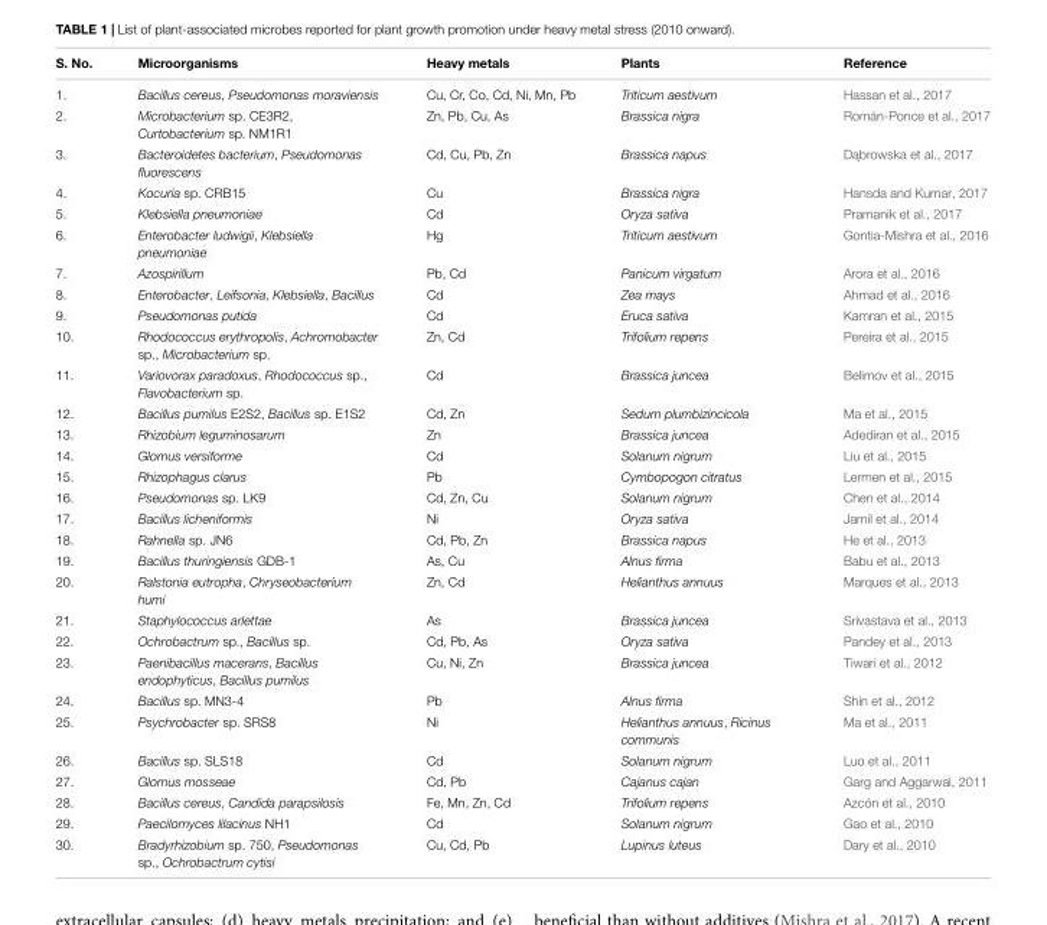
<table><thead><tr><td>S. No.</td><td>Microorganisms</td><td>Heavy metals</td><td>Plants</td><td>Reference</td></tr></thead><tbody><tr><td>1.</td><td>Bacillus cereus, Pseudomonas moraviensis</td><td>Cu, Cr, Co, Cd, Ni, Mn, Pb</td><td>Triticum aestivum</td><td>Hassan et al., 2017</td></tr><tr><td>2.</td><td>Microbacterium sp. CE3R2, Curtobacterium sp. NM1R1</td><td>Zn, Pb, Cu, As</td><td>Brassica nigra</td><td>Román-Ponce et al., 2017</td></tr><tr><td>3.</td><td>Bacteroidetes bacterium, Pseudomonas fluorescens</td><td>Cd, Cu, Pb, Zn</td><td>Brassica napus</td><td>D ˛abrowska et al., 2017</td></tr><tr><td>4.</td><td>Kocuria sp. CRB15</td><td>Cu</td><td>Brassica nigra</td><td>Hansda and Kumar, 2017</td></tr><tr><td>5.</td><td>Klebsiella pneumoniae</td><td>Cd</td><td>Oryza sativa</td><td>Pramanik et al., 2017</td></tr><tr><td>6.</td><td>Enterobacter ludwigii, Klebsiella pneumoniae</td><td>Hg</td><td>Triticum aestivum</td><td>Gontia-Mishra et al., 2016</td></tr><tr><td>7.</td><td>Azospirillum</td><td>Pb, Cd</td><td>Panicum virgatum</td><td>Arora et al., 2016</td></tr><tr><td>8.</td><td>Enterobacter, Leifsonia, Klebsiella, Bacillus</td><td>Cd</td><td>Zea mays</td><td>Ahmad et al., 2016</td></tr><tr><td>9.</td><td>Pseudomonas putida</td><td>Cd</td><td>Eruca sativa</td><td>Kamran et al., 2015</td></tr><tr><td>10.</td><td>Rhodococcus erythropolis, Achromobacter sp., Microbacterium sp.</td><td>Zn, Cd</td><td>Trifolium repens</td><td>Pereira et al., 2015</td></tr><tr><td>11.</td><td>Variovorax paradoxus, Rhodococcus sp., Flavobacterium sp.</td><td>Cd</td><td>Brassica juncea</td><td>Belimov et al., 2015</td></tr><tr><td>12.</td><td>Bacillus pumilus E2S2, Bacillus sp. E1S2</td><td>Cd, Zn</td><td>Sedum plumbizincicola</td><td>Ma et al., 2015</td></tr><tr><td>13.</td><td>Rhizobium leguminosarum</td><td>Zn</td><td>Brassica juncea</td><td>Adediran et al., 2015</td></tr><tr><td>14.</td><td>Glomus versiforme</td><td>Cd</td><td>Solanum nigrum</td><td>Liu et al., 2015</td></tr><tr><td>15.</td><td>Rhizophagus clarus</td><td>Pb</td><td>Cymbopogon citratus</td><td>Lermen et al., 2015</td></tr><tr><td>16.</td><td>Pseudomonas sp. LK9</td><td>Cd, Zn, Cu</td><td>Solanum nigrum</td><td>Chen et al., 2014</td></tr><tr><td>17.</td><td>Bacillus licheniformis</td><td>Ni</td><td>Oryza sativa</td><td>Jamil et al., 2014</td></tr><tr><td>18.</td><td>Rahnella sp. JN6</td><td>Cd, Pb, Zn</td><td>Brassica napus</td><td>He et al., 2013</td></tr><tr><td>19.</td><td>Bacillus thuringiensis GDB-1</td><td>As, Cu</td><td>Alnus firma</td><td>Babu et al., 2013</td></tr><tr><td>20.</td><td>Ralstonia eutropha, Chryseobacterium humi</td><td>Zn, Cd</td><td>Helianthus annuus</td><td>Marques et al., 2013</td></tr><tr><td>21.</td><td>Staphylococcus arlettae</td><td>As</td><td>Brassica juncea</td><td>Srivastava et al., 2013</td></tr><tr><td>22.</td><td>Ochrobactrum sp., Bacillus sp.</td><td>Cd, Pb, As</td><td>Oryza sativa</td><td>Pandey et al., 2013</td></tr><tr><td>23.</td><td>Paenibacillus macerans, Bacillus endophyticus, Bacillus pumilus</td><td>Cu, Ni, Zn</td><td>Brassica juncea</td><td>Tiwari et al., 2012</td></tr><tr><td>24.</td><td>Bacillus sp. MN3-4</td><td>Pb</td><td>Alnus firma</td><td>Shin et al., 2012</td></tr><tr><td>25.</td><td>Psychrobacter sp. SRS8</td><td>Ni</td><td>Helianthus annuus, Ricinus communis</td><td>Ma et al., 2011</td></tr><tr><td>26.</td><td>Bacillus sp. SLS18</td><td>Cd</td><td>Solanum nigrum</td><td>Luo et al., 2011</td></tr><tr><td>27.</td><td>Glomus mosseae</td><td>Cd, Pb</td><td>Cajanus cajan</td><td>Garg and Aggarwal, 2011</td></tr><tr><td>28.</td><td>Bacillus cereus, Candida parapsilosis</td><td>Fe, Mn, Zn, Cd</td><td>Trifolium repens</td><td>Azcón et al., 2010</td></tr><tr><td>29.</td><td>Paecilomyces lilacinus NH1</td><td>Cd</td><td>Solanum nigrum</td><td>Gao et al., 2010</td></tr><tr><td>30.</td><td>Bradyrhizobium sp. 750, Pseudomonas sp., Ochrobactrum cytisi</td><td>Cu, Cd, Pb</td><td>Lupinus luteus</td><td>Dary et al., 2010</td></tr></tbody></table>